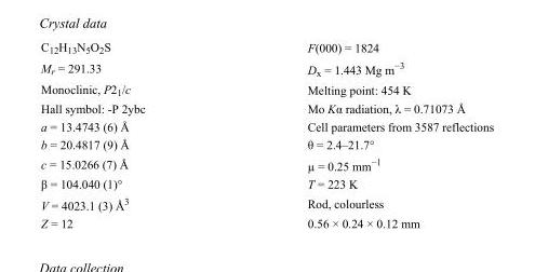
<table><tbody><tr><td>C<sub>12</sub>H<sub>13</sub>N<sub>5</sub>O<sub>2</sub>S</td><td>F(000) = 1824</td></tr><tr><td>M<sub>r</sub> = 291.33</td><td>D<sub>x</sub> = 1.443 Mg m<sup>−3</sup></td></tr><tr><td>Monoclinic, P2<sub>1</sub>/c</td><td>Melting point: 454 K</td></tr><tr><td>Hall symbol: -P 2ybc</td><td>Mo Kα radiation, λ = 0.71073 Å</td></tr><tr><td>a = 13.4743 (6) Å</td><td>Cell parameters from 3587 reflections</td></tr><tr><td>b = 20.4817 (9) Å</td><td>θ = 2.4–21.7°</td></tr><tr><td>c = 15.0266 (7) Å</td><td>µ = 0.25 mm<sup>−1</sup></td></tr><tr><td>β = 104.040 (1)°</td><td>T = 223 K</td></tr><tr><td>V = 4023.1 (3) Å<sup>3</sup></td><td>Rod, colourless</td></tr><tr><td>Z = 12</td><td>0.56 × 0.24 × 0.12 mm</td></tr></tbody></table>